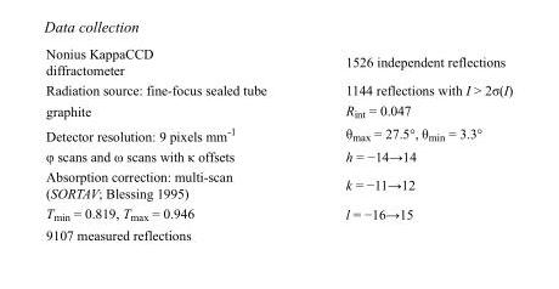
<table><tbody><tr><td>Nonius KappaCCD diffractometer</td><td>1526 independent reflections</td></tr><tr><td>Radiation source: fine-focus sealed tube</td><td>1144 reflections with I &gt; 2σ(I)</td></tr><tr><td>graphite</td><td>R<sub>int</sub> = 0.047</td></tr><tr><td>Detector resolution: 9 pixels mm<sup>-1</sup></td><td>θ<sub>max</sub> = 27.5°, θ<sub>min</sub> = 3.3°</td></tr><tr><td>φ scans and ω scans with κ offsets</td><td>h = −14→14</td></tr><tr><td>Absorption correction: multi-scan (SORTAV; Blessing 1995)</td><td>k = −11→12</td></tr><tr><td>T<sub>min</sub> = 0.819, T<sub>max</sub> = 0.946</td><td>l = −16→15</td></tr><tr><td>9107 measured reflections</td><td></td></tr></tbody></table>